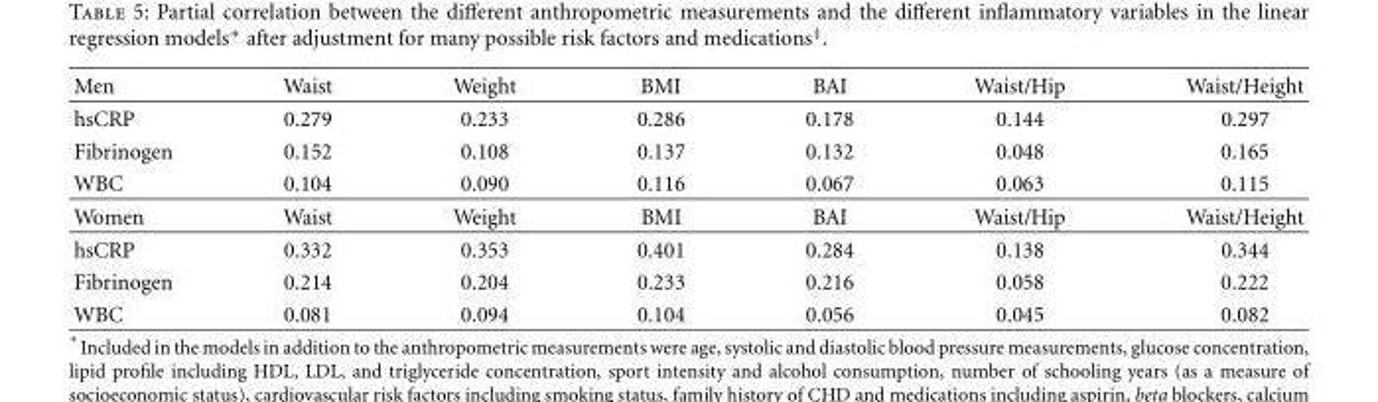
<table><thead><tr><td>Men</td><td>Waist</td><td>Weight</td><td>BMI</td><td>BAI</td><td>Waist/Hip</td><td>Waist/Height</td></tr></thead><tbody><tr><td>hsCRP</td><td>0.279</td><td>0.233</td><td>0.286</td><td>0.178</td><td>0.144</td><td>0.297</td></tr><tr><td>Fibrinogen</td><td>0.152</td><td>0.108</td><td>0.137</td><td>0.132</td><td>0.048</td><td>0.165</td></tr><tr><td>WBC</td><td>0.104</td><td>0.090</td><td>0.116</td><td>0.067</td><td>0.063</td><td>0.115</td></tr><tr><td>Women</td><td>Waist</td><td>Weight</td><td>BMI</td><td>BAI</td><td>Waist/Hip</td><td>Waist/Height</td></tr><tr><td>hsCRP</td><td>0.332</td><td>0.353</td><td>0.401</td><td>0.284</td><td>0.138</td><td>0.344</td></tr><tr><td>Fibrinogen</td><td>0.214</td><td>0.204</td><td>0.233</td><td>0.216</td><td>0.058</td><td>0.222</td></tr><tr><td>WBC</td><td>0.081</td><td>0.094</td><td>0.104</td><td>0.056</td><td>0.045</td><td>0.082</td></tr></tbody></table>